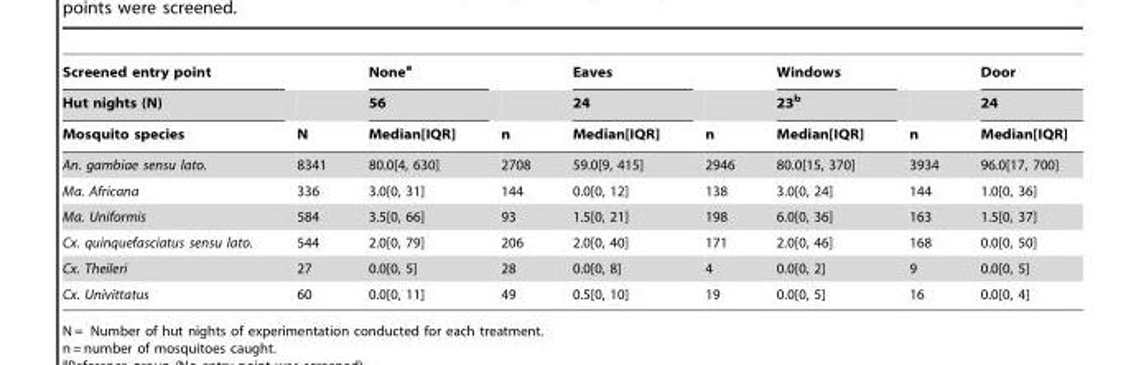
<table><thead><tr><td rowspan="3">Screened entry point Hut nights (N) Mosquito species</td><td rowspan="3">N</td><td rowspan="3">None<sup>a</sup> 56 Median[IQR]</td><td rowspan="3">n</td><td rowspan="3">Eaves 24 Median[IQR]</td><td rowspan="3">n</td><td rowspan="3">Windows 23<sup>b</sup> Median[IQR]</td><td rowspan="3">n</td><td rowspan="3">Door 24 Median[IQR]</td></tr><tr></tr><tr></tr></thead><tbody><tr><td>An. gambiae sensu lato.</td><td>8341</td><td>80.0[4, 630]</td><td>2708</td><td>59.0[9, 415]</td><td>2946</td><td>80.0[15, 370]</td><td>3934</td><td>96.0[17, 700]</td></tr><tr><td>Ma. Africana</td><td>336</td><td>3.0[0, 31]</td><td>144</td><td>0.0[0, 12]</td><td>138</td><td>3.0[0, 24]</td><td>144</td><td>1.0[0, 36]</td></tr><tr><td>Ma. Uniformis</td><td>584</td><td>3.5[0, 66]</td><td>93</td><td>1.5[0, 21]</td><td>198</td><td>6.0[0, 36]</td><td>163</td><td>1.5[0, 37]</td></tr><tr><td>Cx. quinquefasciatus sensu lato.</td><td>544</td><td>2.0[0, 79]</td><td>206</td><td>2.0[0, 40]</td><td>171</td><td>2.0[0, 46]</td><td>168</td><td>0.0[0, 50]</td></tr><tr><td>Cx. Theileri</td><td>27</td><td>0.0[0, 5]</td><td>28</td><td>0.0[0, 8]</td><td>4</td><td>0.0[0, 2]</td><td>9</td><td>0.0[0, 5]</td></tr><tr><td>Cx. Univittatus</td><td>60</td><td>0.0[0, 11]</td><td>49</td><td>0.5[0, 10]</td><td>19</td><td>0.0[0, 5]</td><td>16</td><td>0.0[0, 4]</td></tr></tbody></table>